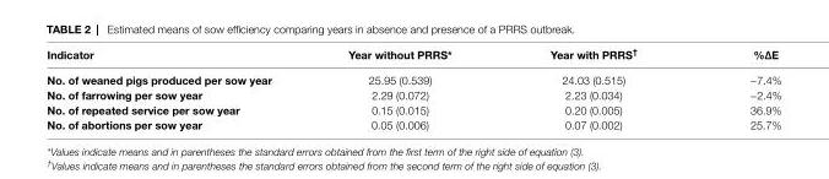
<table><thead><tr><td>indicator</td><td>Year without Prrs*</td><td>Year with Prrs<sup>†</sup></td><td>%Δe</td></tr></thead><tbody><tr><td>no. of weaned pigs produced per sow year</td><td>25.95 (0.539)</td><td>24.03 (0.515)</td><td>−7.4%</td></tr><tr><td>no. of farrowing per sow year</td><td>2.29 (0.072)</td><td>2.23 (0.034)</td><td>−2.4%</td></tr><tr><td>no. of repeated service per sow year</td><td>0.15 (0.015)</td><td>0.20 (0.005)</td><td>36.9%</td></tr><tr><td>no. of abortions per sow year</td><td>0.05 (0.006)</td><td>0.07 (0.002)</td><td>25.7%</td></tr></tbody></table>